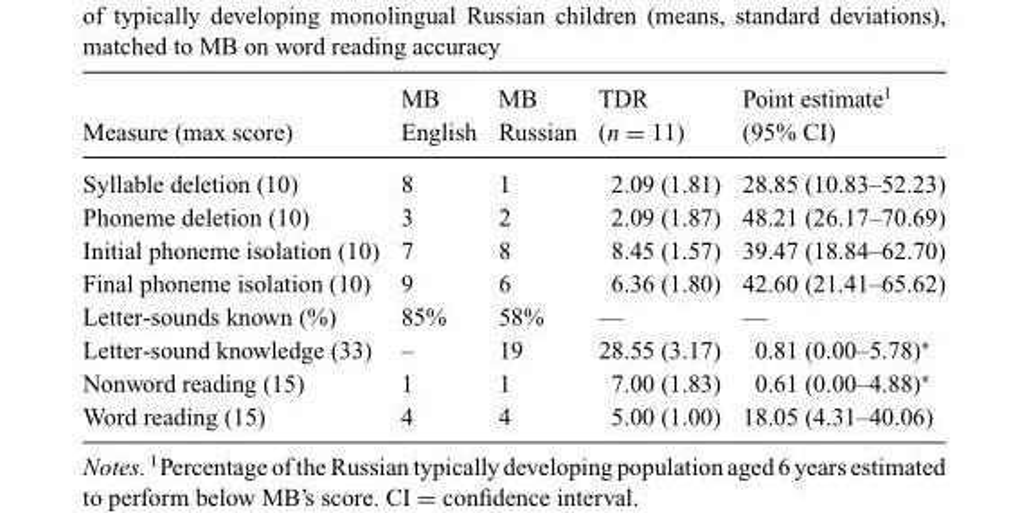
<table><thead><tr><td rowspan="2">Measure (max score)</td><td rowspan="2">MB English</td><td rowspan="2">MB Russian</td><td rowspan="2">TDR (n = 11)</td><td rowspan="2">Point estimate<sup>1</sup> (95% CI)</td></tr><tr></tr></thead><tbody><tr><td>Syllable deletion (10)</td><td>8</td><td>1</td><td>2.09 (1.81)</td><td>28.85 (10.83–52.23)</td></tr><tr><td>Phoneme deletion (10)</td><td>3</td><td>2</td><td>2.09 (1.87)</td><td>48.21 (26.17–70.69)</td></tr><tr><td>Initial phoneme isolation (10)</td><td>7</td><td>8</td><td>8.45 (1.57)</td><td>39.47 (18.84–62.70)</td></tr><tr><td>Final phoneme isolation (10)</td><td>9</td><td>6</td><td>6.36 (1.80)</td><td>42.60 (21.41–65.62)</td></tr><tr><td>Letter-sounds known (%)</td><td>85%</td><td>58%</td><td>—</td><td>—</td></tr><tr><td>Letter-sound knowledge (33)</td><td>–</td><td>19</td><td>28.55 (3.17)</td><td>0.81 (0.00–5.78)∗</td></tr><tr><td>Nonword reading (15)</td><td>1</td><td>1</td><td>7.00 (1.83)</td><td>0.61 (0.00–4.88)∗</td></tr><tr><td>Word reading (15)</td><td>4</td><td>4</td><td>5.00 (1.00)</td><td>18.05 (4.31–40.06)</td></tr></tbody></table>